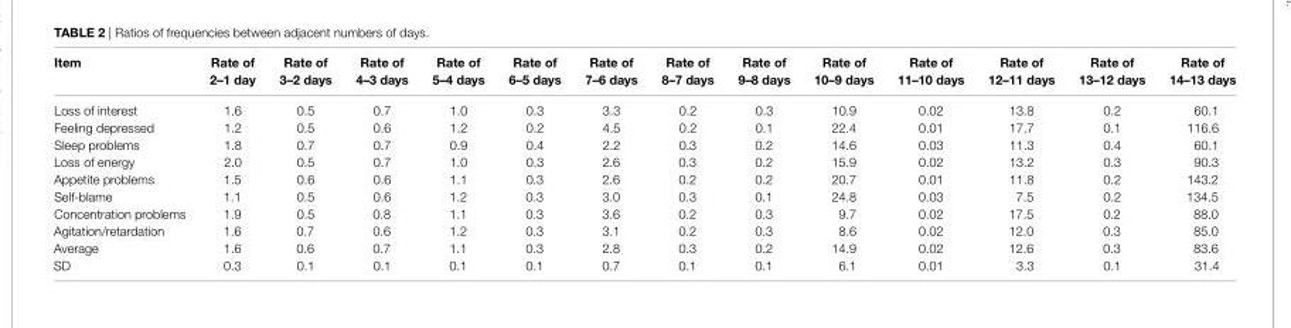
<table><thead><tr><td>item</td><td>rate of 2–1 day</td><td>rate of 3–2 days</td><td>rate of 4–3 days</td><td>rate of 5–4 days</td><td>rate of 6–5 days</td><td>rate of 7–6 days</td><td>rate of 8–7 days</td><td>rate of 9–8 days</td><td>rate of 10–9 days</td><td>rate of 11–10 days</td><td>rate of 12–11 days</td><td>rate of 13–12 days</td><td>rate of 14–13 days</td></tr></thead><tbody><tr><td>Loss of interest</td><td>1.6</td><td>0.5</td><td>0.7</td><td>1.0</td><td>0.3</td><td>3.3</td><td>0.2</td><td>0.3</td><td>10.9</td><td>0.02</td><td>13.8</td><td>0.2</td><td>60.1</td></tr><tr><td>Feeling depressed</td><td>1.2</td><td>0.5</td><td>0.6</td><td>1.2</td><td>0.2</td><td>4.5</td><td>0.2</td><td>0.1</td><td>22.4</td><td>0.01</td><td>17.7</td><td>0.1</td><td>116.6</td></tr><tr><td>Sleep problems</td><td>1.8</td><td>0.7</td><td>0.7</td><td>0.9</td><td>0.4</td><td>2.2</td><td>0.3</td><td>0.2</td><td>14.6</td><td>0.03</td><td>11.3</td><td>0.4</td><td>60.1</td></tr><tr><td>Loss of energy</td><td>2.0</td><td>0.5</td><td>0.7</td><td>1.0</td><td>0.3</td><td>2.6</td><td>0.3</td><td>0.2</td><td>15.9</td><td>0.02</td><td>13.2</td><td>0.3</td><td>90.3</td></tr><tr><td>Appetite problems</td><td>1.5</td><td>0.6</td><td>0.6</td><td>1.1</td><td>0.3</td><td>2.6</td><td>0.2</td><td>0.2</td><td>20.7</td><td>0.01</td><td>11.8</td><td>0.2</td><td>143.2</td></tr><tr><td>Self-blame</td><td>1.1</td><td>0.5</td><td>0.6</td><td>1.2</td><td>0.3</td><td>3.0</td><td>0.3</td><td>0.1</td><td>24.8</td><td>0.03</td><td>7.5</td><td>0.2</td><td>134.5</td></tr><tr><td>Concentration problems</td><td>1.9</td><td>0.5</td><td>0.8</td><td>1.1</td><td>0.3</td><td>3.6</td><td>0.2</td><td>0.3</td><td>9.7</td><td>0.02</td><td>17.5</td><td>0.2</td><td>88.0</td></tr><tr><td>Agitation/retardation</td><td>1.6</td><td>0.7</td><td>0.6</td><td>1.2</td><td>0.3</td><td>3.1</td><td>0.2</td><td>0.3</td><td>8.6</td><td>0.02</td><td>12.0</td><td>0.3</td><td>85.0</td></tr><tr><td>Average</td><td>1.6</td><td>0.6</td><td>0.7</td><td>1.1</td><td>0.3</td><td>2.8</td><td>0.3</td><td>0.2</td><td>14.9</td><td>0.02</td><td>12.6</td><td>0.3</td><td>83.6</td></tr><tr><td>SD</td><td>0.3</td><td>0.1</td><td>0.1</td><td>0.1</td><td>0.1</td><td>0.7</td><td>0.1</td><td>0.1</td><td>6.1</td><td>0.01</td><td>3.3</td><td>0.1</td><td>31.4</td></tr></tbody></table>